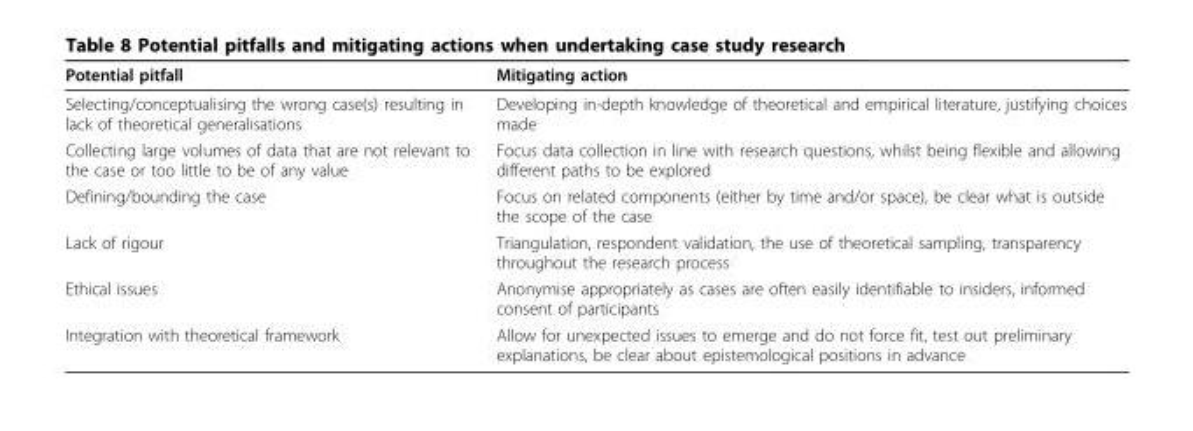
<table><thead><tr><td>Potential pitfall</td><td>Mitigating action</td></tr></thead><tbody><tr><td>Selecting/conceptualising the wrong case(s) resulting in lack of theoretical generalisations</td><td>Developing in-depth knowledge of theoretical and empirical literature, justifying choices made</td></tr><tr><td>Collecting large volumes of data that are not relevant to the case or too little to be of any value</td><td>Focus data collection in line with research questions, whilst being flexible and allowing different paths to be explored</td></tr><tr><td>Defining/bounding the case</td><td>Focus on related components (either by time and/or space), be clear what is outside the scope of the case</td></tr><tr><td>Lack of rigour</td><td>Triangulation, respondent validation, the use of theoretical sampling, transparency throughout the research process</td></tr><tr><td>Ethical issues</td><td>Anonymise appropriately as cases are often easily identifiable to insiders, informed consent of participants</td></tr><tr><td>Integration with theoretical framework</td><td>Allow for unexpected issues to emerge and do not force fit, test out preliminary explanations, be clear about epistemological positions in advance</td></tr></tbody></table>